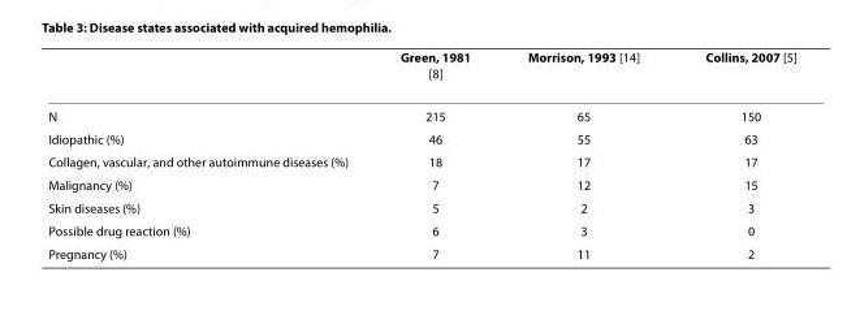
<table><thead><tr><td></td><td>Green, 1981 [8]</td><td>Morrison, 1993 [14]</td><td>Collins, 2007 [5]</td></tr></thead><tbody><tr><td>N</td><td>215</td><td>65</td><td>150</td></tr><tr><td>Idiopathic (%)</td><td>46</td><td>55</td><td>63</td></tr><tr><td>Collagen, vascular, and other autoimmune diseases (%)</td><td>18</td><td>17</td><td>17</td></tr><tr><td>Malignancy (%)</td><td>7</td><td>12</td><td>15</td></tr><tr><td>Skin diseases (%)</td><td>5</td><td>2</td><td>3</td></tr><tr><td>Possible drug reaction (%)</td><td>6</td><td>3</td><td>0</td></tr><tr><td>Pregnancy (%)</td><td>7</td><td>11</td><td>2</td></tr></tbody></table>